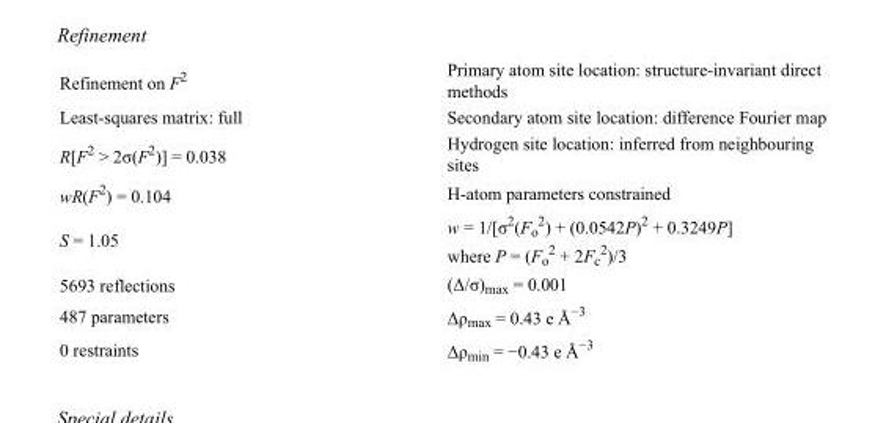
<table><tbody><tr><td>Refinement on F<sup>2</sup></td><td>Primary atom site location: structure-invariant direct methods</td></tr><tr><td>Least-squares matrix: full</td><td>Secondary atom site location: difference Fourier map</td></tr><tr><td>R[F<sup>2</sup> &gt; 2σ(F<sup>2</sup>)] = 0.038</td><td>Hydrogen site location: inferred from neighbouring sites</td></tr><tr><td>wR(F<sup>2</sup>) = 0.104</td><td>H-atom parameters constrained</td></tr><tr><td>S = 1.05</td><td>w = 1/[σ<sup>2</sup>(F<sub>o</sub> <sup>2</sup>) + (0.0542P)<sup>2</sup> + 0.3249P] where P = (F<sub>o</sub> <sup>2</sup> + 2F<sub>c</sub> <sup>2</sup>)/3</td></tr><tr><td>5693 reflections</td><td>(Δ/σ)<sub>max</sub> = 0.001</td></tr><tr><td>487 parameters</td><td>Δρ<sub>max</sub> = 0.43 e Å<sup>−3</sup></td></tr><tr><td>0 restraints</td><td>Δρ<sub>min</sub> = −0.43 e Å<sup>−3</sup></td></tr></tbody></table>